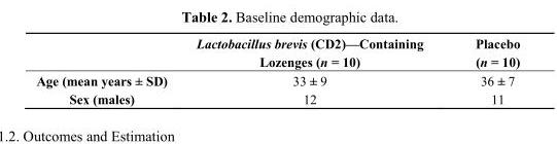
<table><thead><tr><td></td><td>Lactobacillus brevis (CD2)—Containing Lozenges (n = 10)</td><td>Placebo (n = 10)</td></tr></thead><tbody><tr><td>Age (mean years ± SD)</td><td>33 ± 9</td><td>36 ± 7</td></tr><tr><td>Sex (males)</td><td>12</td><td>11</td></tr></tbody></table>